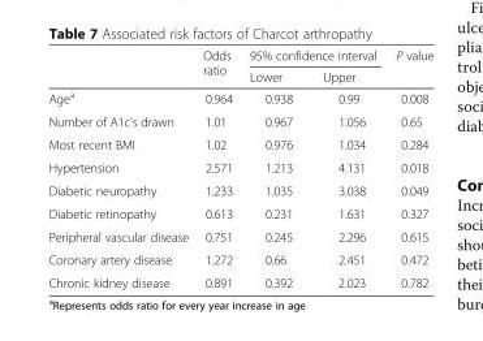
<table><thead><tr><td rowspan="2"></td><td rowspan="2">Odds ratio</td><td colspan="2">95% confidence interval</td><td rowspan="2">P value</td></tr><tr><td>Lower</td><td>Upper</td></tr></thead><tbody><tr><td>Age<sup>a</sup></td><td>0.964</td><td>0.938</td><td>0.99</td><td>0.008</td></tr><tr><td>Number of A1c’s drawn</td><td>1.01</td><td>0.967</td><td>1.056</td><td>0.65</td></tr><tr><td>Most recent BMI</td><td>1.02</td><td>0.976</td><td>1.034</td><td>0.284</td></tr><tr><td>Hypertension</td><td>2.571</td><td>1.213</td><td>4.131</td><td>0.018</td></tr><tr><td>Diabetic neuropathy</td><td>1.233</td><td>1.035</td><td>3.038</td><td>0.049</td></tr><tr><td>Diabetic retinopathy</td><td>0.613</td><td>0.231</td><td>1.631</td><td>0.327</td></tr><tr><td>Peripheral vascular disease</td><td>0.751</td><td>0.245</td><td>2.296</td><td>0.615</td></tr><tr><td>Coronary artery disease</td><td>1.272</td><td>0.66</td><td>2.451</td><td>0.472</td></tr><tr><td>Chronic kidney disease</td><td>0.891</td><td>0.392</td><td>2.023</td><td>0.782</td></tr></tbody></table>